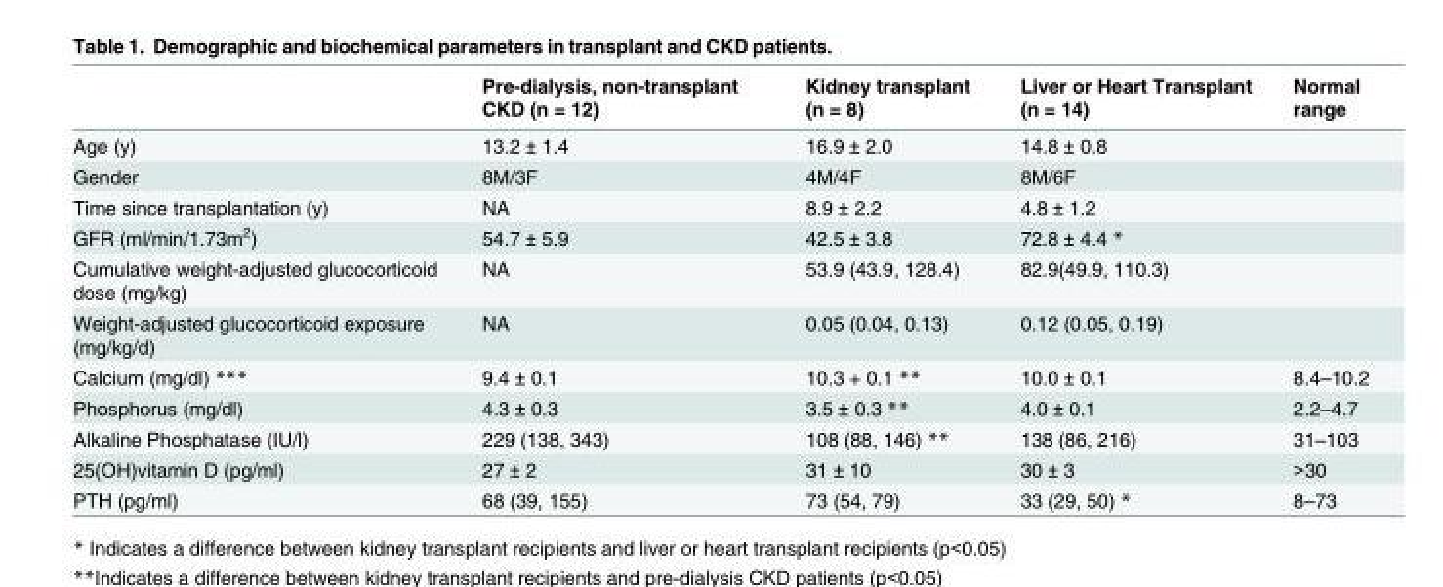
<table><thead><tr><td></td><td>Pre-dialysis, non-transplant CKD (n = 12)</td><td>Kidney transplant (n = 8)</td><td>Liver or Heart Transplant (n = 14)</td><td>Normal range</td></tr></thead><tbody><tr><td>Age (y)</td><td>13.2 ± 1.4</td><td>16.9 ± 2.0</td><td>14.8 ± 0.8</td><td></td></tr><tr><td>Gender</td><td>8M/3F</td><td>4M/4F</td><td>8M/6F</td><td></td></tr><tr><td>Time since transplantation (y)</td><td>NA</td><td>8.9 ± 2.2</td><td>4.8 ± 1.2</td><td></td></tr><tr><td>GFR (ml/min/1.73m<sup>2</sup>)</td><td>54.7 ± 5.9</td><td>42.5 ± 3.8</td><td>72.8 ± 4.4 *</td><td></td></tr><tr><td>Cumulative weight-adjusted glucocorticoid dose (mg/kg)</td><td>NA</td><td>53.9 (43.9, 128.4)</td><td>82.9(49.9, 110.3)</td><td></td></tr><tr><td>Weight-adjusted glucocorticoid exposure (mg/kg/d)</td><td>NA</td><td>0.05 (0.04, 0.13)</td><td>0.12 (0.05, 0.19)</td><td></td></tr><tr><td>Calcium (mg/dl) ***</td><td>9.4 ± 0.1</td><td>10.3 + 0.1 **</td><td>10.0 ± 0.1</td><td>8.4–10.2</td></tr><tr><td>Phosphorus (mg/dl)</td><td>4.3 ± 0.3</td><td>3.5 ± 0.3 **</td><td>4.0 ± 0.1</td><td>2.2–4.7</td></tr><tr><td>Alkaline Phosphatase (IU/l)</td><td>229 (138, 343)</td><td>108 (88, 146) **</td><td>138 (86, 216)</td><td>31–103</td></tr><tr><td>25(OH)vitamin D (pg/ml)</td><td>27 ± 2</td><td>31 ± 10</td><td>30 ± 3</td><td>&gt;30</td></tr><tr><td>PTH (pg/ml)</td><td>68 (39, 155)</td><td>73 (54, 79)</td><td>33 (29, 50) *</td><td>8–73</td></tr></tbody></table>